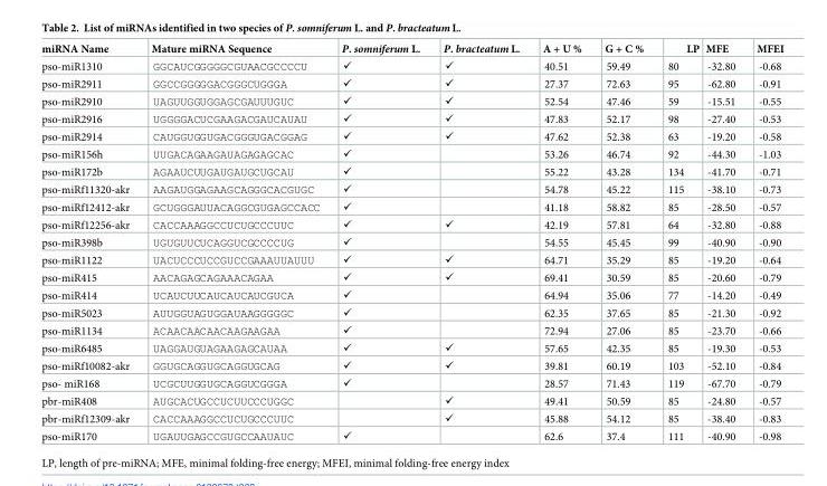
<table><thead><tr><td>miRNA Name</td><td>Mature miRNA Sequence</td><td>P. somniferum L.</td><td>P. bracteatum L.</td><td>A + U %</td><td>G + C %</td><td>LP</td><td>MFE</td><td>MFEI</td></tr></thead><tbody><tr><td>pso-miR1310</td><td>GGCAUCGGGGGCGUAACGCCCCU</td><td>✓</td><td>✓</td><td>40.51</td><td>59.49</td><td>80</td><td>-32.80</td><td>-0.68</td></tr><tr><td>pso-miR2911</td><td>GGCCGGGGGACGGGCUGGGA</td><td>✓</td><td>✓</td><td>27.37</td><td>72.63</td><td>95</td><td>-62.80</td><td>-0.91</td></tr><tr><td>pso-miR2910</td><td>UAGUUGGUGGAGCGAUUUGUC</td><td>✓</td><td>✓</td><td>52.54</td><td>47.46</td><td>59</td><td>-15.51</td><td>-0.55</td></tr><tr><td>pso-miR2916</td><td>UGGGGACUCGAAGACGAUCAUAU</td><td>✓</td><td>✓</td><td>47.83</td><td>52.17</td><td>98</td><td>-27.40</td><td>-0.53</td></tr><tr><td>pso-miR2914</td><td>CAUGGUGGUGACGGGUGACGGAG</td><td>✓</td><td>✓</td><td>47.62</td><td>52.38</td><td>63</td><td>-19.20</td><td>-0.58</td></tr><tr><td>pso-miR156h</td><td>UUGACAGAAGAUAGAGAGCAC</td><td>✓</td><td></td><td>53.26</td><td>46.74</td><td>92</td><td>-44.30</td><td>-1.03</td></tr><tr><td>pso-miR172b</td><td>AGAAUCUUGAUGAUGCUGCAU</td><td>✓</td><td></td><td>55.22</td><td>43.28</td><td>134</td><td>-41.70</td><td>-0.71</td></tr><tr><td>pso-miRf11320-akr</td><td>AAGAUGGAGAAGCAGGGCACGUGC</td><td>✓</td><td></td><td>54.78</td><td>45.22</td><td>115</td><td>-38.10</td><td>-0.73</td></tr><tr><td>pso-miRf12412-akr</td><td>GCUGGGAUUACAGGCGUGAGCCACC</td><td>✓</td><td></td><td>41.18</td><td>58.82</td><td>85</td><td>-28.50</td><td>-0.57</td></tr><tr><td>pso-miRf12256-akr</td><td>CACCAAAGGCCUCUGCCCUUC</td><td>✓</td><td>✓</td><td>42.19</td><td>57.81</td><td>64</td><td>-32.80</td><td>-0.88</td></tr><tr><td>pso-miR398b</td><td>UGUGUUCUCAGGUCGCCCCUG</td><td>✓</td><td></td><td>54.55</td><td>45.45</td><td>99</td><td>-40.90</td><td>-0.90</td></tr><tr><td>pso-miR1122</td><td>UACUCCCUCCGUCCGAAAUUAUUU</td><td>✓</td><td>✓</td><td>64.71</td><td>35.29</td><td>85</td><td>-19.20</td><td>-0.64</td></tr><tr><td>pso-miR415</td><td>AACAGAGCAGAAACAGAA</td><td>✓</td><td>✓</td><td>69.41</td><td>30.59</td><td>85</td><td>-20.60</td><td>-0.79</td></tr><tr><td>pso-miR414</td><td>UCAUCUUCAUCAUCAUCGUCA</td><td>✓</td><td></td><td>64.94</td><td>35.06</td><td>77</td><td>-14.20</td><td>-0.49</td></tr><tr><td>pso-miR5023</td><td>AUUGGUAGUGGAUAAGGGGGC</td><td>✓</td><td></td><td>62.35</td><td>37.65</td><td>85</td><td>-21.30</td><td>-0.92</td></tr><tr><td>pso-miR1134</td><td>ACAACAACAACAAGAAGAA</td><td>✓</td><td></td><td>72.94</td><td>27.06</td><td>85</td><td>-23.70</td><td>-0.66</td></tr><tr><td>pso-miR6485</td><td>UAGGAUGUAGAAGAGCAUAA</td><td>✓</td><td>✓</td><td>57.65</td><td>42.35</td><td>85</td><td>-19.30</td><td>-0.53</td></tr><tr><td>pso-miRf10082-akr</td><td>GGUGCAGGUGCAGGUGCAG</td><td>✓</td><td>✓</td><td>39.81</td><td>60.19</td><td>103</td><td>-52.10</td><td>-0.84</td></tr><tr><td>pso- miR168</td><td>UCGCUUGGUGCAGGUCGGGA</td><td>✓</td><td></td><td>28.57</td><td>71.43</td><td>119</td><td>-67.70</td><td>-0.79</td></tr><tr><td>pbr-miR408</td><td>AUGCACUGCCUCUUCCCUGGC</td><td></td><td>✓</td><td>49.41</td><td>50.59</td><td>85</td><td>-24.80</td><td>-0.57</td></tr><tr><td>pbr-miRf12309-akr</td><td>CACCAAAGGCCUCUGCCCUUC</td><td></td><td>✓</td><td>45.88</td><td>54.12</td><td>85</td><td>-38.40</td><td>-0.83</td></tr><tr><td>pso-miR170</td><td>UGAUUGAGCCGUGCCAAUAUC</td><td>✓</td><td></td><td>62.6</td><td>37.4</td><td>111</td><td>-40.90</td><td>-0.98</td></tr></tbody></table>